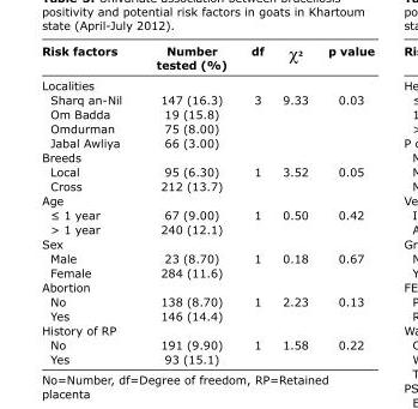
<table><thead><tr><td>Risk factors</td><td>Number tested (%)</td><td>df</td><td>χ<sup>2</sup></td><td>p value</td></tr></thead><tbody><tr><td colspan="5">Localities</td></tr><tr><td>Sharq an-Nil</td><td>147 (16.3)</td><td>3</td><td>9.33</td><td>0.03</td></tr><tr><td>Om Badda</td><td>19 (15.8)</td><td></td><td></td><td></td></tr><tr><td>Omdurman</td><td>75 (8.00)</td><td></td><td></td><td></td></tr><tr><td>Jabal Awliya</td><td>66 (3.00)</td><td></td><td></td><td></td></tr><tr><td colspan="5">Breeds</td></tr><tr><td>Local</td><td>95 (6.30)</td><td>1</td><td>3.52</td><td>0.05</td></tr><tr><td>Cross</td><td>212 (13.7)</td><td></td><td></td><td></td></tr><tr><td colspan="5">Age</td></tr><tr><td>≤ 1 year</td><td>67 (9.00)</td><td>1</td><td>0.50</td><td>0.42</td></tr><tr><td>&gt; 1 year</td><td>240 (12.1)</td><td></td><td></td><td></td></tr><tr><td colspan="5">Sex</td></tr><tr><td>Male</td><td>23 (8.70)</td><td>1</td><td>0.18</td><td>0.67</td></tr><tr><td>Female</td><td>284 (11.6)</td><td></td><td></td><td></td></tr><tr><td colspan="5">Abortion</td></tr><tr><td>No</td><td>138 (8.70)</td><td>1</td><td>2.23</td><td>0.13</td></tr><tr><td>Yes</td><td>146 (14.4)</td><td></td><td></td><td></td></tr><tr><td colspan="5">History of RP</td></tr><tr><td>No</td><td>191 (9.90)</td><td>1</td><td>1.58</td><td>0.22</td></tr><tr><td>Yes</td><td>93 (15.1)</td><td></td><td></td><td></td></tr></tbody></table>